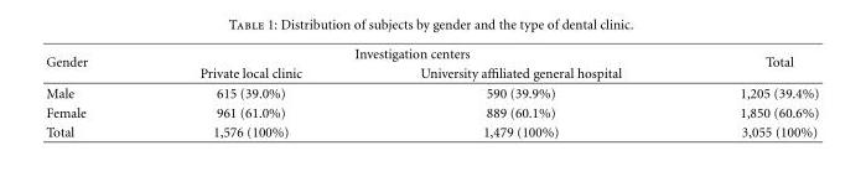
<table><thead><tr><td rowspan="2">Gender</td><td colspan="2">Investigation centers</td><td rowspan="2">Total</td></tr><tr><td>Private local clinic</td><td>University affiliated general hospital</td></tr></thead><tbody><tr><td>Male</td><td>615 (39.0%)</td><td>590 (39.9%)</td><td>1,205 (39.4%)</td></tr><tr><td>Female</td><td>961 (61.0%)</td><td>889 (60.1%)</td><td>1,850 (60.6%)</td></tr><tr><td>Total</td><td>1,576 (100%)</td><td>1,479 (100%)</td><td>3,055 (100%)</td></tr></tbody></table>